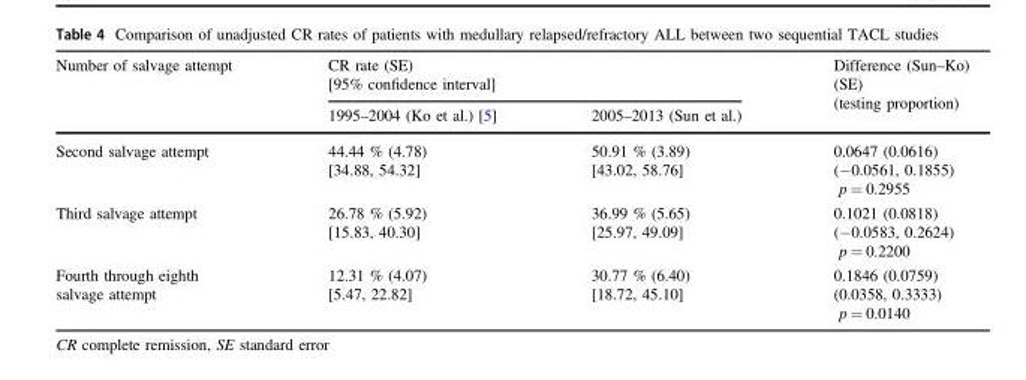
<table><thead><tr><td rowspan="2">Number of salvage attempt</td><td colspan="2">CR rate (SE) [95% confidence interval]</td><td rowspan="2">Difference (Sun–Ko) (SE) (testing proportion)</td></tr><tr><td>1995–2004 (Ko et al.) [5]</td><td>2005–2013 (Sun et al.)</td></tr></thead><tbody><tr><td>Second salvage attempt</td><td>44.44 % (4.78) [34.88, 54.32]</td><td>50.91 % (3.89) [43.02, 58.76]</td><td>0.0647 (0.0616) (−0.0561, 0.1855) p = 0.2955</td></tr><tr><td>Third salvage attempt</td><td>26.78 % (5.92) [15.83, 40.30]</td><td>36.99 % (5.65) [25.97, 49.09]</td><td>0.1021 (0.0818) (−0.0583, 0.2624) p = 0.2200</td></tr><tr><td>Fourth through eighth salvage attempt</td><td>12.31 % (4.07) [5.47, 22.82]</td><td>30.77 % (6.40) [18.72, 45.10]</td><td>0.1846 (0.0759) (0.0358, 0.3333) p = 0.0140</td></tr></tbody></table>